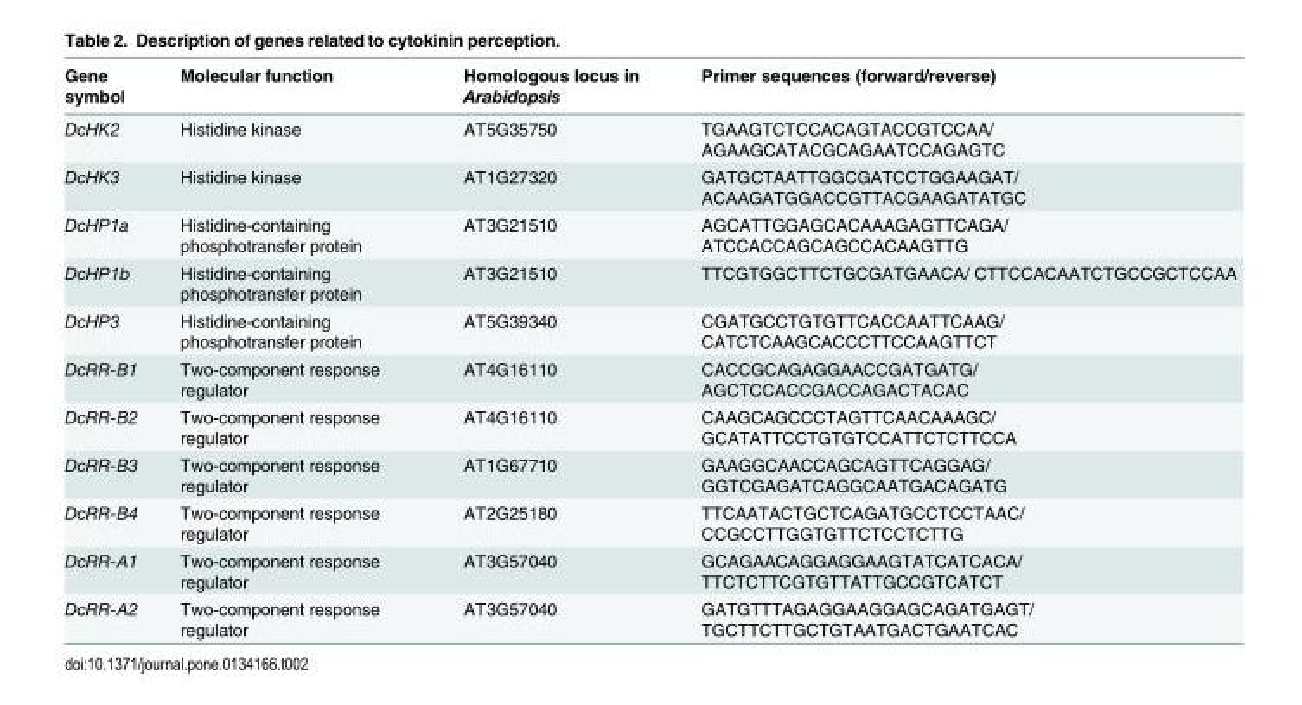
<table><thead><tr><td>Gene symbol</td><td>Molecular function</td><td>Homologous locus in Arabidopsis</td><td>Primer sequences (forward/reverse)</td></tr></thead><tbody><tr><td>DcHK2</td><td>Histidine kinase</td><td>AT5G35750</td><td>TGAAGTCTCCACAGTACCGTCCAA/ AGAAGCATACGCAGAATCCAGAGTC</td></tr><tr><td>DcHK3</td><td>Histidine kinase</td><td>AT1G27320</td><td>GATGCTAATTGGCGATCCTGGAAGAT/ ACAAGATGGACCGTTACGAAGATATGC</td></tr><tr><td>DcHP1a</td><td>Histidine-containing phosphotransfer protein</td><td>AT3G21510</td><td>AGCATTGGAGCACAAAGAGTTCAGA/ ATCCACCAGCAGCCACAAGTTG</td></tr><tr><td>DcHP1b</td><td>Histidine-containing phosphotransfer protein</td><td>AT3G21510</td><td>TTCGTGGCTTCTGCGATGAACA/ CTTCCACAATCTGCCGCTCCAA</td></tr><tr><td>DcHP3</td><td>Histidine-containing phosphotransfer protein</td><td>AT5G39340</td><td>CGATGCCTGTGTTCACCAATTCAAG/ CATCTCAAGCACCCTTCCAAGTTCT</td></tr><tr><td>DcRR-B1</td><td>Two-component response regulator</td><td>AT4G16110</td><td>CACCGCAGAGGAACCGATGATG/ AGCTCCACCGACCAGACTACAC</td></tr><tr><td>DcRR-B2</td><td>Two-component response regulator</td><td>AT4G16110</td><td>CAAGCAGCCCTAGTTCAACAAAGC/ GCATATTCCTGTGTCCATTCTCTTCCA</td></tr><tr><td>DcRR-B3</td><td>Two-component response regulator</td><td>AT1G67710</td><td>GAAGGCAACCAGCAGTTCAGGAG/ GGTCGAGATCAGGCAATGACAGATG</td></tr><tr><td>DcRR-B4</td><td>Two-component response regulator</td><td>AT2G25180</td><td>TTCAATACTGCTCAGATGCCTCCTAAC/ CCGCCTTGGTGTTCTCCTCTTG</td></tr><tr><td>DcRR-A1</td><td>Two-component response regulator</td><td>AT3G57040</td><td>GCAGAACAGGAGGAAGTATCATCACA/ TTCTCTTCGTGTTATTGCCGTCATCT</td></tr><tr><td>DcRR-A2</td><td>Two-component response regulator</td><td>AT3G57040</td><td>GATGTTTAGAGGAAGGAGCAGATGAGT/ TGCTTCTTGCTGTAATGACTGAATCAC</td></tr></tbody></table>